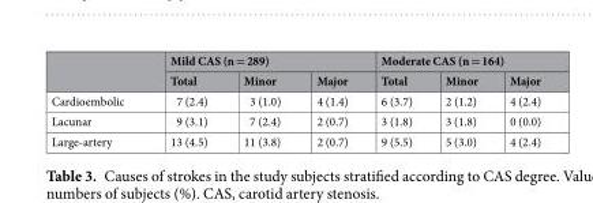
<table><thead><tr><td rowspan="2"></td><td colspan="3">Mild CAS (n = 289)</td><td colspan="3">Moderate CAS (n = 164)</td></tr><tr><td>Total</td><td>Minor</td><td>Major</td><td>Total</td><td>Minor</td><td>Major</td></tr></thead><tbody><tr><td>Cardioembolic</td><td>7 (2.4)</td><td>3 (1.0)</td><td>4 (1.4)</td><td>6 (3.7)</td><td>2 (1.2)</td><td>4 (2.4)</td></tr><tr><td>Lacunar</td><td>9 (3.1)</td><td>7 (2.4)</td><td>2 (0.7)</td><td>3 (1.8)</td><td>3 (1.8)</td><td>0 (0.0)</td></tr><tr><td>Large-artery</td><td>13 (4.5)</td><td>11 (3.8)</td><td>2 (0.7)</td><td>9 (5.5)</td><td>5 (3.0)</td><td>4 (2.4)</td></tr></tbody></table>